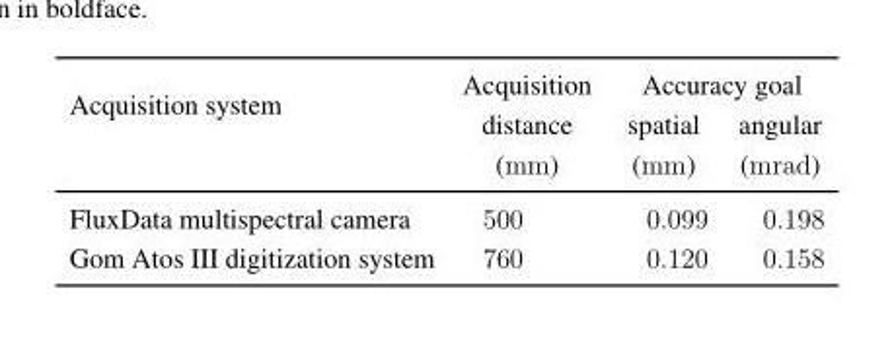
<table><thead><tr><td rowspan="2">Acquisition system</td><td rowspan="2">Acquisition distance (mm)</td><td colspan="2">Accuracy goal</td></tr><tr><td>spatial (mm)</td><td>angular (mrad)</td></tr></thead><tbody><tr><td>FluxData multispectral camera</td><td>500</td><td>0.099</td><td>0.198</td></tr><tr><td>Gom Atos III digitization system</td><td>760</td><td>0.120</td><td>0.158</td></tr></tbody></table>